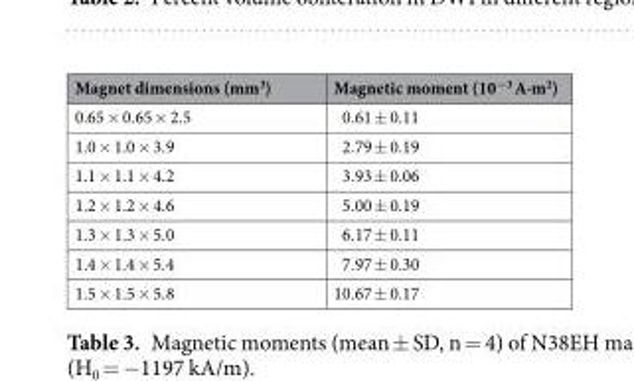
<table><thead><tr><td>Magnet dimensions (mm<sup>3</sup>)</td><td>Magnetic moment (10<sup>−3</sup> A·m<sup>2</sup>)</td></tr></thead><tbody><tr><td>0.65 × 0.65 × 2.5</td><td>0.61 ± 0.11</td></tr><tr><td>1.0 × 1.0 × 3.9</td><td>2.79 ± 0.19</td></tr><tr><td>1.1 × 1.1 × 4.2</td><td>3.93 ± 0.06</td></tr><tr><td>1.2 × 1.2 × 4.6</td><td>5.00 ± 0.19</td></tr><tr><td>1.3 × 1.3 × 5.0</td><td>6.17 ± 0.11</td></tr><tr><td>1.4 × 1.4 × 5.4</td><td>7.97 ± 0.30</td></tr><tr><td>1.5 × 1.5 × 5.8</td><td>10.67 ± 0.17</td></tr></tbody></table>